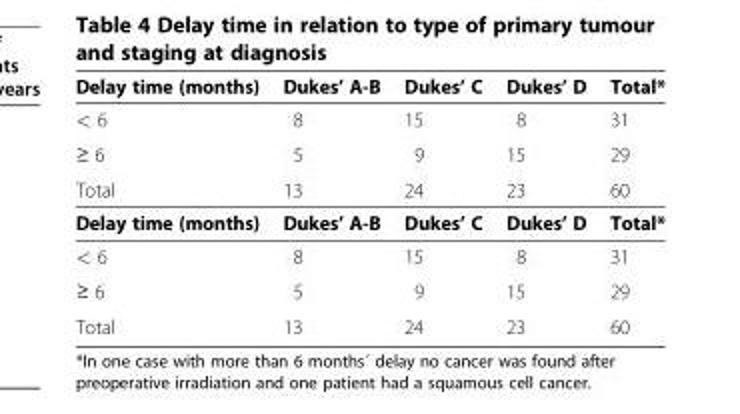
<table><tbody><tr><td>Delay time (months)</td><td>Dukes’ A-B</td><td>Dukes’ C</td><td>Dukes’ D</td><td>Total*</td></tr><tr><td>&lt; 6</td><td>8</td><td>15</td><td>8</td><td>31</td></tr><tr><td>≥ 6</td><td>5</td><td>9</td><td>15</td><td>29</td></tr><tr><td>Total</td><td>13</td><td>24</td><td>23</td><td>60</td></tr><tr><td>Delay time (months)</td><td>Dukes’ A-B</td><td>Dukes’ C</td><td>Dukes’ D</td><td>Total*</td></tr><tr><td>&lt; 6</td><td>8</td><td>15</td><td>8</td><td>31</td></tr><tr><td>≥ 6</td><td>5</td><td>9</td><td>15</td><td>29</td></tr><tr><td>Total</td><td>13</td><td>24</td><td>23</td><td>60</td></tr></tbody></table>